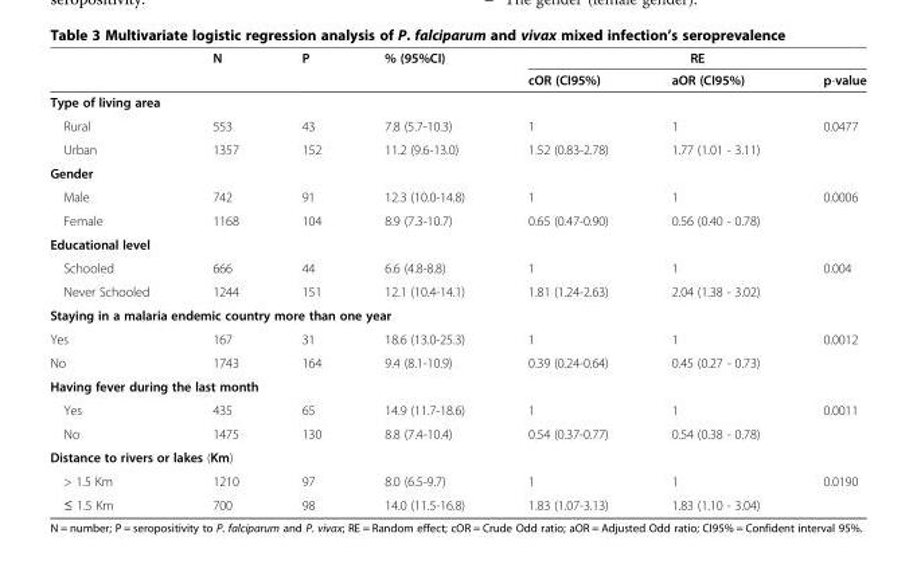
<table><thead><tr><td rowspan="2"></td><td rowspan="2">N</td><td rowspan="2">P</td><td rowspan="2">% (95%CI)</td><td colspan="3">RE</td></tr><tr><td>cOR (CI95%)</td><td>aOR (CI95%)</td><td>p-value</td></tr></thead><tbody><tr><td colspan="7">Type of living area</td></tr><tr><td>Rural</td><td>553</td><td>43</td><td>7.8 (5.7-10.3)</td><td>1</td><td>1</td><td rowspan="2">0.0477</td></tr><tr><td>Urban</td><td>1357</td><td>152</td><td>11.2 (9.6-13.0)</td><td>1.52 (0.83-2.78)</td><td>1.77 (1.01 - 3.11)</td></tr><tr><td colspan="7">Gender</td></tr><tr><td>Male</td><td>742</td><td>91</td><td>12.3 (10.0-14.8)</td><td>1</td><td>1</td><td rowspan="2">0.0006</td></tr><tr><td>Female</td><td>1168</td><td>104</td><td>8.9 (7.3-10.7)</td><td>0.65 (0.47-0.90)</td><td>0.56 (0.40 - 0.78)</td></tr><tr><td colspan="7">Educational level</td></tr><tr><td>Schooled</td><td>666</td><td>44</td><td>6.6 (4.8-8.8)</td><td>1</td><td>1</td><td rowspan="2">0.004</td></tr><tr><td>Never Schooled</td><td>1244</td><td>151</td><td>12.1 (10.4-14.1)</td><td>1.81 (1.24-2.63)</td><td>2.04 (1.38 - 3.02)</td></tr><tr><td colspan="7">Staying in a malaria endemic country more than one year</td></tr><tr><td>Yes</td><td>167</td><td>31</td><td>18.6 (13.0-25.3)</td><td>1</td><td>1</td><td rowspan="2">0.0012</td></tr><tr><td>No</td><td>1743</td><td>164</td><td>9.4 (8.1-10.9)</td><td>0.39 (0.24-0.64)</td><td>0.45 (0.27 - 0.73)</td></tr><tr><td colspan="7">Having fever during the last month</td></tr><tr><td>Yes</td><td>435</td><td>65</td><td>14.9 (11.7-18.6)</td><td>1</td><td>1</td><td rowspan="2">0.0011</td></tr><tr><td>No</td><td>1475</td><td>130</td><td>8.8 (7.4-10.4)</td><td>0.54 (0.37-0.77)</td><td>0.54 (0.38 - 0.78)</td></tr><tr><td colspan="7">Distance to rivers or lakes (Km)</td></tr><tr><td>&gt; 1.5 Km</td><td>1210</td><td>97</td><td>8.0 (6.5-9.7)</td><td>1</td><td>1</td><td>0.0190</td></tr><tr><td>≤ 1.5 Km</td><td>700</td><td>98</td><td>14.0 (11.5-16.8)</td><td>1.83 (1.07-3.13)</td><td>1.83 (1.10 - 3.04)</td><td></td></tr></tbody></table>